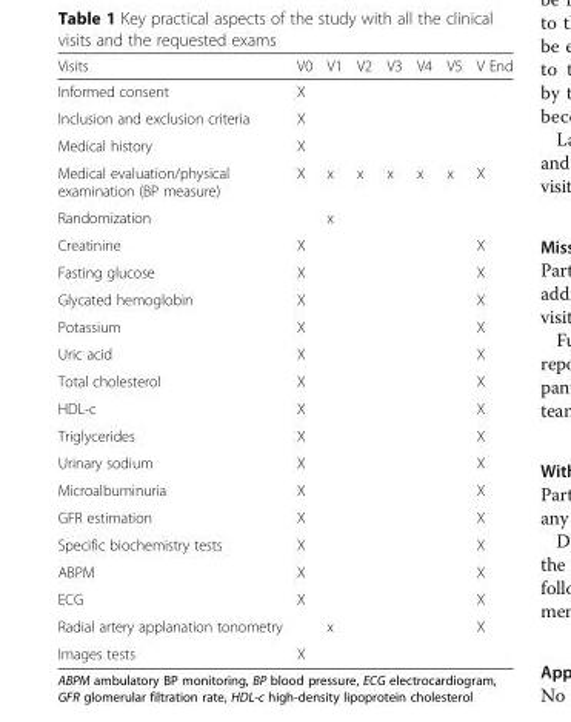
<table><thead><tr><td>Visits</td><td>V0</td><td>V1</td><td>V2</td><td>V3</td><td>V4</td><td>V5</td><td>V End</td></tr></thead><tbody><tr><td>Informed consent</td><td>X</td><td></td><td></td><td></td><td></td><td></td><td></td></tr><tr><td>Inclusion and exclusion criteria</td><td>X</td><td></td><td></td><td></td><td></td><td></td><td></td></tr><tr><td>Medical history</td><td>X</td><td></td><td></td><td></td><td></td><td></td><td></td></tr><tr><td>Medical evaluation/physical examination (BP measure)</td><td>X</td><td>x</td><td>x</td><td>x</td><td>x</td><td>x</td><td>X</td></tr><tr><td>Randomization</td><td></td><td>x</td><td></td><td></td><td></td><td></td><td></td></tr><tr><td>Creatinine</td><td>X</td><td></td><td></td><td></td><td></td><td></td><td>X</td></tr><tr><td>Fasting glucose</td><td>X</td><td></td><td></td><td></td><td></td><td></td><td>X</td></tr><tr><td>Glycated hemoglobin</td><td>X</td><td></td><td></td><td></td><td></td><td></td><td>X</td></tr><tr><td>Potassium</td><td>X</td><td></td><td></td><td></td><td></td><td></td><td>X</td></tr><tr><td>Uric acid</td><td>X</td><td></td><td></td><td></td><td></td><td></td><td>X</td></tr><tr><td>Total cholesterol</td><td>X</td><td></td><td></td><td></td><td></td><td></td><td>X</td></tr><tr><td>HDL-c</td><td>X</td><td></td><td></td><td></td><td></td><td></td><td>X</td></tr><tr><td>Triglycerides</td><td>X</td><td></td><td></td><td></td><td></td><td></td><td>X</td></tr><tr><td>Urinary sodium</td><td>X</td><td></td><td></td><td></td><td></td><td></td><td>X</td></tr><tr><td>Microalbuminuria</td><td>X</td><td></td><td></td><td></td><td></td><td></td><td>X</td></tr><tr><td>GFR estimation</td><td>X</td><td></td><td></td><td></td><td></td><td></td><td>X</td></tr><tr><td>Specific biochemistry tests</td><td>X</td><td></td><td></td><td></td><td></td><td></td><td>X</td></tr><tr><td>ABPM</td><td>X</td><td></td><td></td><td></td><td></td><td></td><td>X</td></tr><tr><td>ECG</td><td>X</td><td></td><td></td><td></td><td></td><td></td><td>X</td></tr><tr><td>Radial artery applanation tonometry</td><td></td><td>x</td><td></td><td></td><td></td><td></td><td>X</td></tr><tr><td>Images tests</td><td>X</td><td></td><td></td><td></td><td></td><td></td><td></td></tr></tbody></table>